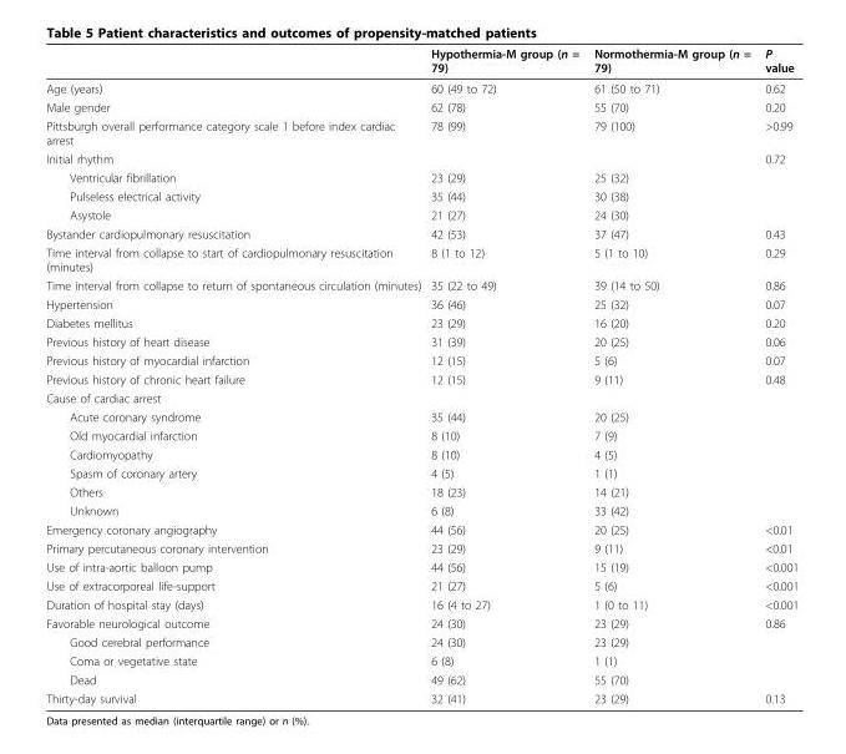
<table><thead><tr><td></td><td>Hypothermia-M group (n = 79)</td><td>Normothermia-M group (n = 79)</td><td>P value</td></tr></thead><tbody><tr><td>Age (years)</td><td>60 (49 to 72)</td><td>61 (50 to 71)</td><td>0.62</td></tr><tr><td>Male gender</td><td>62 (78)</td><td>55 (70)</td><td>0.20</td></tr><tr><td>Pittsburgh overall performance category scale 1 before index cardiac arrest</td><td>78 (99)</td><td>79 (100)</td><td>&gt;0.99</td></tr><tr><td>Initial rhythm</td><td></td><td></td><td>0.72</td></tr><tr><td>Ventricular fibrillation</td><td>23 (29)</td><td>25 (32)</td><td></td></tr><tr><td>Pulseless electrical activity</td><td>35 (44)</td><td>30 (38)</td><td></td></tr><tr><td>Asystole</td><td>21 (27)</td><td>24 (30)</td><td></td></tr><tr><td>Bystander cardiopulmonary resuscitation</td><td>42 (53)</td><td>37 (47)</td><td>0.43</td></tr><tr><td>Time interval from collapse to start of cardiopulmonary resuscitation (minutes)</td><td>8 (1 to 12)</td><td>5 (1 to 10)</td><td>0.29</td></tr><tr><td>Time interval from collapse to return of spontaneous circulation (minutes)</td><td>35 (22 to 49)</td><td>39 (14 to 50)</td><td>0.86</td></tr><tr><td>Hypertension</td><td>36 (46)</td><td>25 (32)</td><td>0.07</td></tr><tr><td>Diabetes mellitus</td><td>23 (29)</td><td>16 (20)</td><td>0.20</td></tr><tr><td>Previous history of heart disease</td><td>31 (39)</td><td>20 (25)</td><td>0.06</td></tr><tr><td>Previous history of myocardial infarction</td><td>12 (15)</td><td>5 (6)</td><td>0.07</td></tr><tr><td>Previous history of chronic heart failure</td><td>12 (15)</td><td>9 (11)</td><td>0.48</td></tr><tr><td colspan="4">Cause of cardiac arrest</td></tr><tr><td>Acute coronary syndrome</td><td>35 (44)</td><td>20 (25)</td><td></td></tr><tr><td>Old myocardial infarction</td><td>8 (10)</td><td>7 (9)</td><td></td></tr><tr><td>Cardiomyopathy</td><td>8 (10)</td><td>4 (5)</td><td></td></tr><tr><td>Spasm of coronary artery</td><td>4 (5)</td><td>1 (1)</td><td></td></tr><tr><td>Others</td><td>18 (23)</td><td>14 (21)</td><td></td></tr><tr><td>Unknown</td><td>6 (8)</td><td>33 (42)</td><td></td></tr><tr><td>Emergency coronary angiography</td><td>44 (56)</td><td>20 (25)</td><td>&lt;0.01</td></tr><tr><td>Primary percutaneous coronary intervention</td><td>23 (29)</td><td>9 (11)</td><td>&lt;0.01</td></tr><tr><td>Use of intra-aortic balloon pump</td><td>44 (56)</td><td>15 (19)</td><td>&lt;0.001</td></tr><tr><td>Use of extracorporeal life-support</td><td>21 (27)</td><td>5 (6)</td><td>&lt;0.001</td></tr><tr><td>Duration of hospital stay (days)</td><td>16 (4 to 27)</td><td>1 (0 to 11)</td><td>&lt;0.001</td></tr><tr><td>Favorable neurological outcome</td><td>24 (30)</td><td>23 (29)</td><td>0.86</td></tr><tr><td>Good cerebral performance</td><td>24 (30)</td><td>23 (29)</td><td></td></tr><tr><td>Coma or vegetative state</td><td>6 (8)</td><td>1 (1)</td><td></td></tr><tr><td>Dead</td><td>49 (62)</td><td>55 (70)</td><td></td></tr><tr><td>Thirty-day survival</td><td>32 (41)</td><td>23 (29)</td><td>0.13</td></tr></tbody></table>